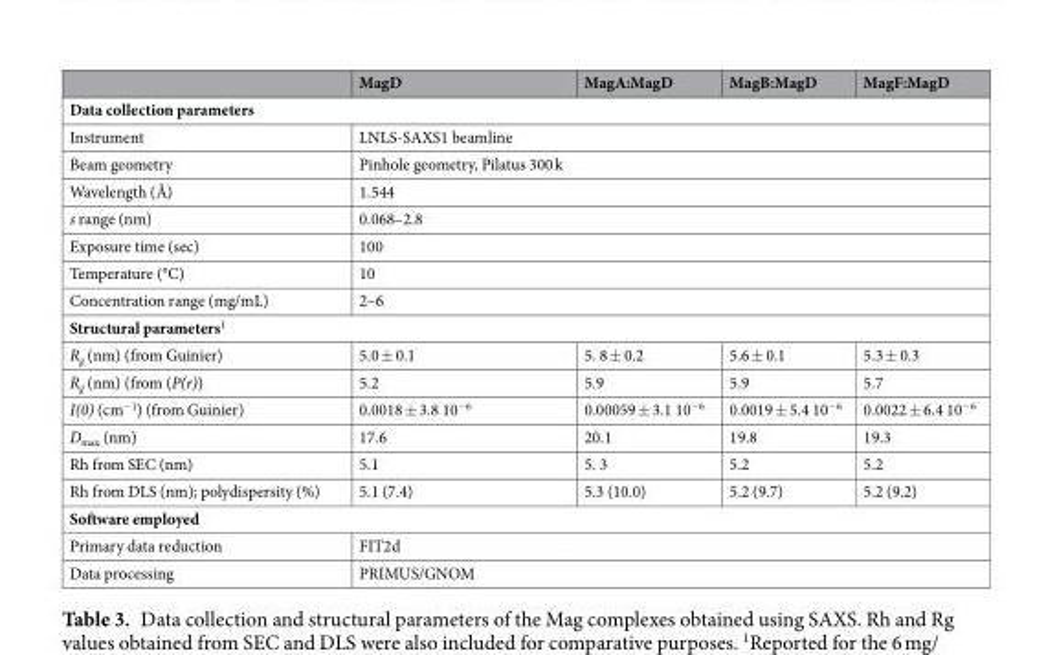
<table><thead><tr><td></td><td>MagD</td><td>MagA:MagD</td><td>MagB:MagD</td><td>MagF:MagD</td></tr></thead><tbody><tr><td colspan="5">Data collection parameters</td></tr><tr><td>Instrument</td><td colspan="4">LNLS-SAXS1 beamline</td></tr><tr><td>Beam geometry</td><td colspan="4">Pinhole geometry, Pilatus 300 k</td></tr><tr><td>Wavelength (Å)</td><td colspan="4">1.544</td></tr><tr><td>s range (nm)</td><td colspan="4">0.068–2.8</td></tr><tr><td>Exposure time (sec)</td><td colspan="4">100</td></tr><tr><td>Temperature (°C)</td><td colspan="4">10</td></tr><tr><td>Concentration range (mg/mL)</td><td colspan="4">2–6</td></tr><tr><td colspan="5">Structural parameters<sup>1</sup></td></tr><tr><td>R<sub>g</sub> (nm) (from Guinier)</td><td>5.0 ± 0.1</td><td>5. 8 ± 0.2</td><td>5.6 ± 0.1</td><td>5.3 ± 0.3</td></tr><tr><td>R<sub>g</sub> (nm) (from (P(r))</td><td>5.2</td><td>5.9</td><td>5.9</td><td>5.7</td></tr><tr><td>I(0) (cm<sup>−1</sup>) (from Guinier)</td><td>0.0018 ± 3.8 10<sup>−6</sup></td><td>0.00059 ± 3.1 10<sup>−6</sup></td><td>0.0019 ± 5.4 10<sup>−6</sup></td><td>0.0022 ± 6.4 10<sup>−6</sup></td></tr><tr><td>D<sub>max</sub> (nm)</td><td>17.6</td><td>20.1</td><td>19.8</td><td>19.3</td></tr><tr><td>Rh from SEC (nm)</td><td>5.1</td><td>5. 3</td><td>5.2</td><td>5.2</td></tr><tr><td>Rh from DLS (nm); polydispersity (%)</td><td>5.1 (7.4)</td><td>5.3 (10.0)</td><td>5.2 (9.7)</td><td>5.2 (9.2)</td></tr><tr><td colspan="5">Software employed</td></tr><tr><td>Primary data reduction</td><td colspan="4">FIT2d</td></tr><tr><td>Data processing</td><td colspan="4">PRIMUS/GNOM</td></tr></tbody></table>